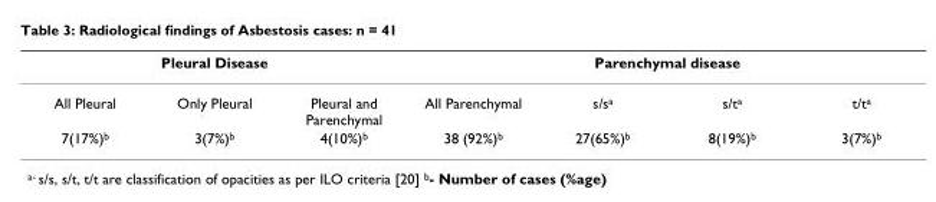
<table><thead><tr><td colspan="3">Pleural Disease</td><td colspan="4">Parenchymal disease</td></tr><tr><td>All Pleural</td><td>Only Pleural</td><td>Pleural and Parenchymal</td><td>All Parenchymal</td><td>s/s<sup>a</sup></td><td>s/t<sup>a</sup></td><td>t/t<sup>a</sup></td></tr></thead><tbody><tr><td>7(17%)<sup>b</sup></td><td>3(7%)<sup>b</sup></td><td>4(10%)<sup>b</sup></td><td>38 (92%)<sup>b</sup></td><td>27(65%)<sup>b</sup></td><td>8(19%)<sup>b</sup></td><td>3(7%)<sup>b</sup></td></tr></tbody></table>